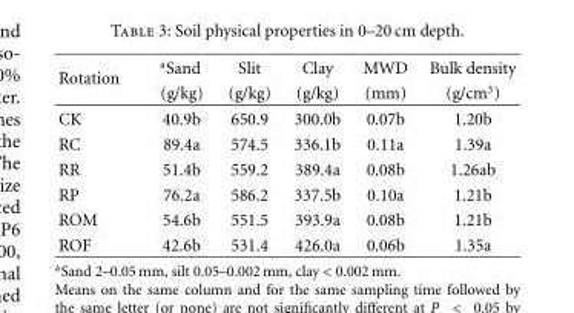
<table><thead><tr><td rowspan="2">Rotation</td><td rowspan="2"><sup>a</sup>Sand (g/kg)</td><td rowspan="2">Slit (g/kg)</td><td rowspan="2">Clay (g/kg)</td><td rowspan="2">MWD (mm)</td><td rowspan="2">Bulk density (g/cm<sup>3</sup>)</td></tr><tr></tr></thead><tbody><tr><td>CK</td><td>40.9b</td><td>650.9</td><td>300.0b</td><td>0.07b</td><td>1.20b</td></tr><tr><td>RC</td><td>89.4a</td><td>574.5</td><td>336.1b</td><td>0.11a</td><td>1.39a</td></tr><tr><td>RR</td><td>51.4b</td><td>559.2</td><td>389.4a</td><td>0.08b</td><td>1.26ab</td></tr><tr><td>RP</td><td>76.2a</td><td>586.2</td><td>337.5b</td><td>0.10a</td><td>1.21b</td></tr><tr><td>ROM</td><td>54.6b</td><td>551.5</td><td>393.9a</td><td>0.08b</td><td>1.21b</td></tr><tr><td>ROF</td><td>42.6b</td><td>531.4</td><td>426.0a</td><td>0.06b</td><td>1.35a</td></tr></tbody></table>